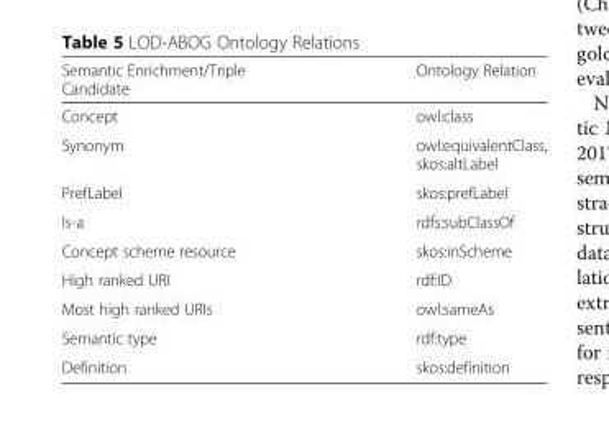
<table><thead><tr><td>Semantic Enrichment/Triple Candidate</td><td>Ontology Relation</td></tr></thead><tbody><tr><td>Concept</td><td>owl:class</td></tr><tr><td>Synonym</td><td>owl:equivalentClass, skos:altLabel</td></tr><tr><td>PrefLabel</td><td>skos:prefLabel</td></tr><tr><td>Is-a</td><td>rdfs:subClassOf</td></tr><tr><td>Concept scheme resource</td><td>skos:inScheme</td></tr><tr><td>High ranked URI</td><td>rdf:ID</td></tr><tr><td>Most high ranked URIs</td><td>owl:sameAs</td></tr><tr><td>Semantic type</td><td>rdf:type</td></tr><tr><td>Definition</td><td>skos:definition</td></tr></tbody></table>